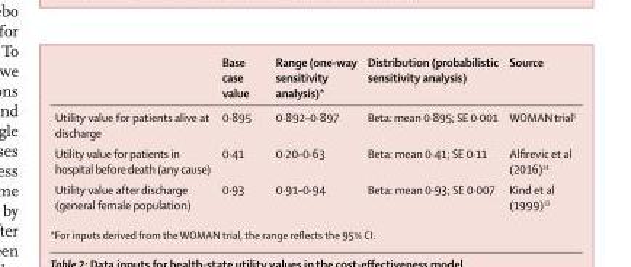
<table><thead><tr><td></td><td>Base case value</td><td>Range (one-way sensitivity analysis)*</td><td>Distribution (probabilistic sensitivity analysis)</td><td>Source</td></tr></thead><tbody><tr><td>Utility value for patients alive at discharge</td><td>0·895</td><td>0·892–0·897</td><td>Beta: mean 0·895; SE 0·001</td><td>WOMAN trial<sup>5</sup></td></tr><tr><td>Utility value for patients in hospital before death (any cause)</td><td>0·41</td><td>0·20–0·63</td><td>Beta: mean 0·41; SE 0·11</td><td>Alfirevic et al (2016)<sup>14</sup></td></tr><tr><td>Utility value after discharge (general female population)</td><td>0·93</td><td>0·91–0·94</td><td>Beta: mean 0·93; SE 0·007</td><td>Kind et al (1999)<sup>13</sup></td></tr></tbody></table>